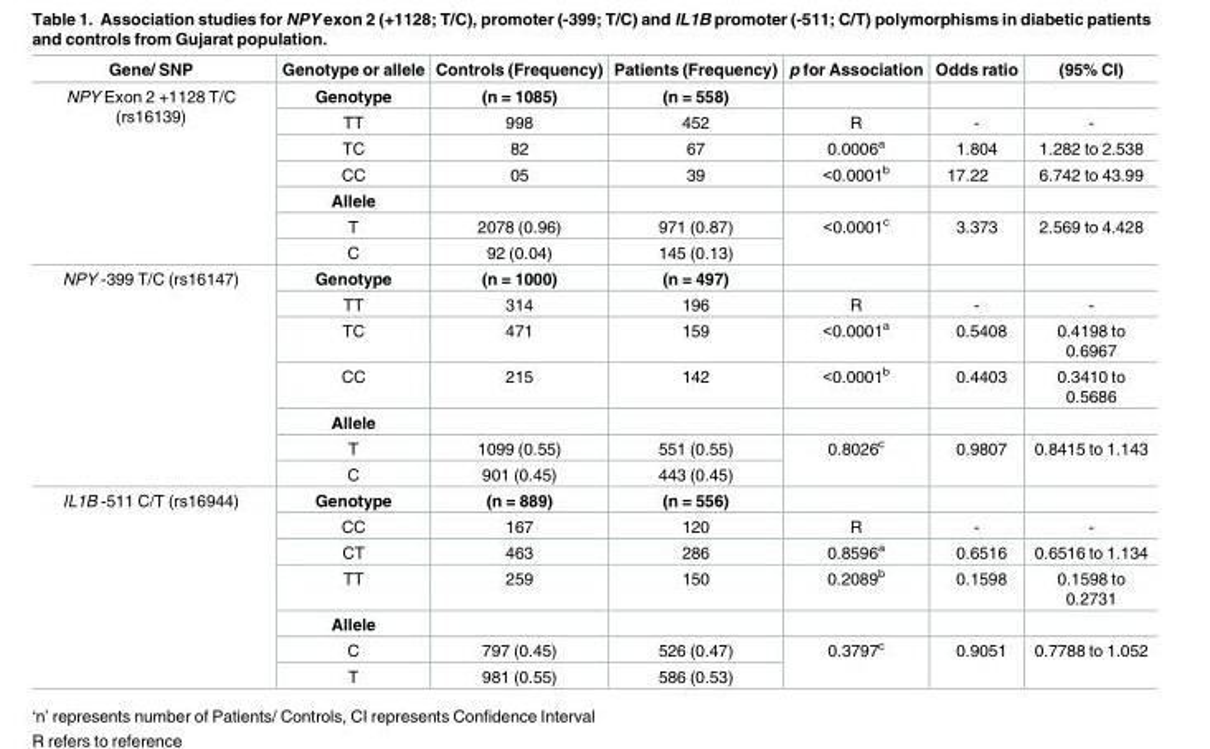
<table><thead><tr><td>Gene/ SNP</td><td>Genotype or allele</td><td>Controls (Frequency)</td><td>Patients (Frequency)</td><td>p for Association</td><td>Odds ratio</td><td>(95% CI)</td></tr></thead><tbody><tr><td rowspan="7">NPY Exon 2 +1128 T/C (rs16139)</td><td>Genotype</td><td>(n = 1085)</td><td>(n = 558)</td><td></td><td></td><td></td></tr><tr><td>TT</td><td>998</td><td>452</td><td>R</td><td>-</td><td>-</td></tr><tr><td>TC</td><td>82</td><td>67</td><td>0.0006<sup>a</sup></td><td>1.804</td><td>1.282 to 2.538</td></tr><tr><td>CC</td><td>05</td><td>39</td><td>&lt;0.0001<sup>b</sup></td><td>17.22</td><td>6.742 to 43.99</td></tr><tr><td>Allele</td><td></td><td></td><td></td><td></td><td></td></tr><tr><td>T</td><td>2078 (0.96)</td><td>971 (0.87)</td><td rowspan="2">&lt;0.0001<sup>c</sup></td><td rowspan="2">3.373</td><td rowspan="2">2.569 to 4.428</td></tr><tr><td>C</td><td>92 (0.04)</td><td>145 (0.13)</td></tr><tr><td rowspan="7">NPY -399 T/C (rs16147)</td><td>Genotype</td><td>(n = 1000)</td><td>(n = 497)</td><td></td><td></td><td></td></tr><tr><td>TT</td><td>314</td><td>196</td><td>R</td><td>-</td><td>-</td></tr><tr><td>TC</td><td>471</td><td>159</td><td>&lt;0.0001<sup>a</sup></td><td>0.5408</td><td>0.4198 to 0.6967</td></tr><tr><td>CC</td><td>215</td><td>142</td><td>&lt;0.0001<sup>b</sup></td><td>0.4403</td><td>0.3410 to 0.5686</td></tr><tr><td>Allele</td><td></td><td></td><td></td><td></td><td></td></tr><tr><td>T</td><td>1099 (0.55)</td><td>551 (0.55)</td><td rowspan="2">0.8026<sup>c</sup></td><td rowspan="2">0.9807</td><td rowspan="2">0.8415 to 1.143</td></tr><tr><td>C</td><td>901 (0.45)</td><td>443 (0.45)</td></tr><tr><td rowspan="7">IL1B -511 C/T (rs16944)</td><td>Genotype</td><td>(n = 889)</td><td>(n = 556)</td><td></td><td></td><td></td></tr><tr><td>CC</td><td>167</td><td>120</td><td>R</td><td>-</td><td>-</td></tr><tr><td>CT</td><td>463</td><td>286</td><td>0.8596<sup>a</sup></td><td>0.6516</td><td>0.6516 to 1.134</td></tr><tr><td>TT</td><td>259</td><td>150</td><td>0.2089<sup>b</sup></td><td>0.1598</td><td>0.1598 to 0.2731</td></tr><tr><td>Allele</td><td></td><td></td><td></td><td></td><td></td></tr><tr><td>C</td><td>797 (0.45)</td><td>526 (0.47)</td><td rowspan="2">0.3797<sup>c</sup></td><td rowspan="2">0.9051</td><td rowspan="2">0.7788 to 1.052</td></tr><tr><td>T</td><td>981 (0.55)</td><td>586 (0.53)</td></tr></tbody></table>